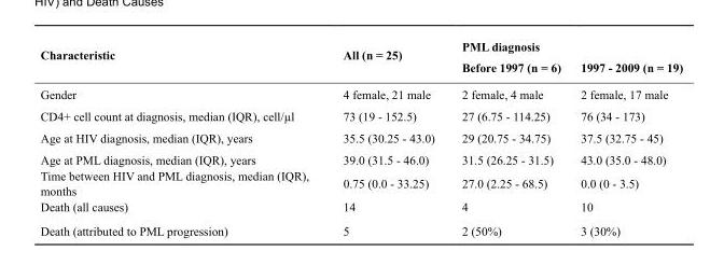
<table><thead><tr><td rowspan="2">Characteristic</td><td rowspan="2">All (n = 25)</td><td colspan="2">PML diagnosis</td></tr><tr><td>Before 1997 (n = 6)</td><td>1997 - 2009 (n = 19)</td></tr></thead><tbody><tr><td>Gender</td><td>4 female, 21 male</td><td>2 female, 4 male</td><td>2 female, 17 male</td></tr><tr><td>CD4+ cell count at diagnosis, median (IQR), cell/µl</td><td>73 (19 - 152.5)</td><td>27 (6.75 - 114.25)</td><td>76 (34 - 173)</td></tr><tr><td>Age at HIV diagnosis, median (IQR), years</td><td>35.5 (30.25 - 43.0)</td><td>29 (20.75 - 34.75)</td><td>37.5 (32.75 - 45)</td></tr><tr><td>Age at PML diagnosis, median (IQR), years</td><td>39.0 (31.5 - 46.0)</td><td>31.5 (26.25 - 31.5)</td><td>43.0 (35.0 - 48.0)</td></tr><tr><td>Time between HIV and PML diagnosis, median (IQR), months</td><td>0.75 (0.0 - 33.25)</td><td>27.0 (2.25 - 68.5)</td><td>0.0 (0 - 3.5)</td></tr><tr><td>Death (all causes)</td><td>14</td><td>4</td><td>10</td></tr><tr><td>Death (attributed to PML progression)</td><td>5</td><td>2 (50%)</td><td>3 (30%)</td></tr></tbody></table>